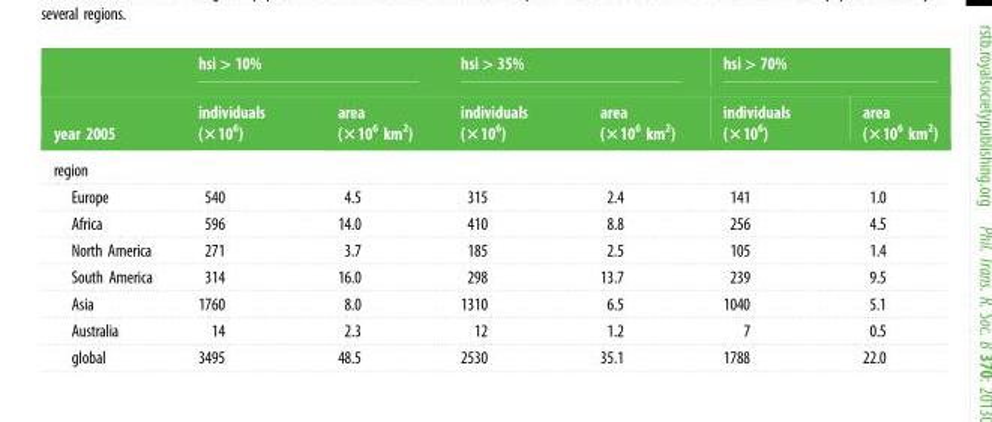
<table><thead><tr><td rowspan="2">year 2005</td><td colspan="2">hsi &gt; 10%</td><td colspan="2">hsi &gt; 35%</td><td colspan="2">hsi &gt; 70%</td></tr><tr><td>individuals (×10<sup>6</sup>)</td><td>area (×10<sup>6</sup> km<sup>2</sup>)</td><td>individuals (×10<sup>6</sup>)</td><td>area (×10<sup>6</sup> km<sup>2</sup>)</td><td>individuals (×10<sup>6</sup>)</td><td>area (×10<sup>6</sup> km<sup>2</sup>)</td></tr></thead><tbody><tr><td colspan="7">region</td></tr><tr><td>Europe</td><td>540</td><td>4.5</td><td>315</td><td>2.4</td><td>141</td><td>1.0</td></tr><tr><td>Africa</td><td>596</td><td>14.0</td><td>410</td><td>8.8</td><td>256</td><td>4.5</td></tr><tr><td>North America</td><td>271</td><td>3.7</td><td>185</td><td>2.5</td><td>105</td><td>1.4</td></tr><tr><td>South America</td><td>314</td><td>16.0</td><td>298</td><td>13.7</td><td>239</td><td>9.5</td></tr><tr><td>Asia</td><td>1760</td><td>8.0</td><td>1310</td><td>6.5</td><td>1040</td><td>5.1</td></tr><tr><td>Australia</td><td>14</td><td>2.3</td><td>12</td><td>1.2</td><td>7</td><td>0.5</td></tr><tr><td>global</td><td>3495</td><td>48.5</td><td>2530</td><td>35.1</td><td>1788</td><td>22.0</td></tr></tbody></table>